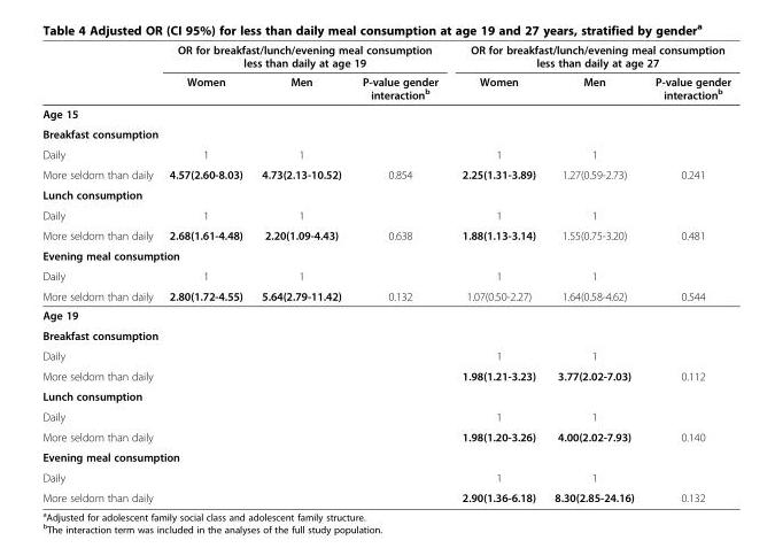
<table><thead><tr><td rowspan="2"></td><td colspan="3">OR for breakfast/lunch/evening meal consumption less than daily at age 19</td><td colspan="3">OR for breakfast/lunch/evening meal consumption less than daily at age 27</td></tr><tr><td>Women</td><td>Men</td><td>P-value gender interaction<sup>b</sup></td><td>Women</td><td>Men</td><td>P-value gender interaction<sup>b</sup></td></tr></thead><tbody><tr><td colspan="7">Age 15</td></tr><tr><td colspan="7">Breakfast consumption</td></tr><tr><td>Daily</td><td>1</td><td>1</td><td></td><td>1</td><td>1</td><td></td></tr><tr><td>More seldom than daily</td><td>4.57(2.60-8.03)</td><td>4.73(2.13-10.52)</td><td>0.854</td><td>2.25(1.31-3.89)</td><td>1.27(0.59-2.73)</td><td>0.241</td></tr><tr><td colspan="7">Lunch consumption</td></tr><tr><td>Daily</td><td>1</td><td>1</td><td></td><td>1</td><td>1</td><td></td></tr><tr><td>More seldom than daily</td><td>2.68(1.61-4.48)</td><td>2.20(1.09-4.43)</td><td>0.638</td><td>1.88(1.13-3.14)</td><td>1.55(0.75-3.20)</td><td>0.481</td></tr><tr><td colspan="7">Evening meal consumption</td></tr><tr><td>Daily</td><td>1</td><td>1</td><td></td><td>1</td><td>1</td><td></td></tr><tr><td>More seldom than daily</td><td>2.80(1.72-4.55)</td><td>5.64(2.79-11.42)</td><td>0.132</td><td>1.07(0.50-2.27)</td><td>1.64(0.58-4.62)</td><td>0.544</td></tr><tr><td colspan="7">Age 19</td></tr><tr><td colspan="7">Breakfast consumption</td></tr><tr><td>Daily</td><td></td><td></td><td></td><td>1</td><td>1</td><td></td></tr><tr><td>More seldom than daily</td><td></td><td></td><td></td><td>1.98(1.21-3.23)</td><td>3.77(2.02-7.03)</td><td>0.112</td></tr><tr><td colspan="7">Lunch consumption</td></tr><tr><td>Daily</td><td></td><td></td><td></td><td>1</td><td>1</td><td></td></tr><tr><td>More seldom than daily</td><td></td><td></td><td></td><td>1.98(1.20-3.26)</td><td>4.00(2.02-7.93)</td><td>0.140</td></tr><tr><td colspan="7">Evening meal consumption</td></tr><tr><td>Daily</td><td></td><td></td><td></td><td>1</td><td>1</td><td></td></tr><tr><td>More seldom than daily</td><td></td><td></td><td></td><td>2.90(1.36-6.18)</td><td>8.30(2.85-24.16)</td><td>0.132</td></tr></tbody></table>